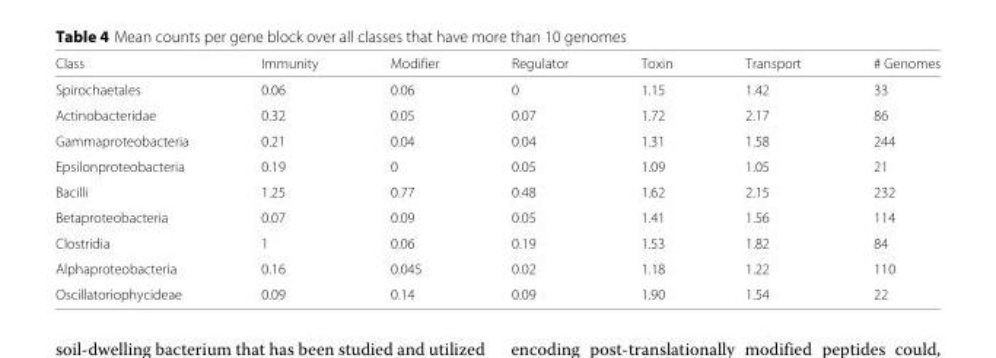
<table><thead><tr><td>Class</td><td>Immunity</td><td>Modifier</td><td>Regulator</td><td>Toxin</td><td>Transport</td><td># Genomes</td></tr></thead><tbody><tr><td>Spirochaetales</td><td>0.06</td><td>0.06</td><td>0</td><td>1.15</td><td>1.42</td><td>33</td></tr><tr><td>Actinobacteridae</td><td>0.32</td><td>0.05</td><td>0.07</td><td>1.72</td><td>2.17</td><td>86</td></tr><tr><td>Gammaproteobacteria</td><td>0.21</td><td>0.04</td><td>0.04</td><td>1.31</td><td>1.58</td><td>244</td></tr><tr><td>Epsilonproteobacteria</td><td>0.19</td><td>0</td><td>0.05</td><td>1.09</td><td>1.05</td><td>21</td></tr><tr><td>Bacilli</td><td>1.25</td><td>0.77</td><td>0.48</td><td>1.62</td><td>2.15</td><td>232</td></tr><tr><td>Betaproteobacteria</td><td>0.07</td><td>0.09</td><td>0.05</td><td>1.41</td><td>1.56</td><td>114</td></tr><tr><td>Clostridia</td><td>1</td><td>0.06</td><td>0.19</td><td>1.53</td><td>1.82</td><td>84</td></tr><tr><td>Alphaproteobacteria</td><td>0.16</td><td>0.045</td><td>0.02</td><td>1.18</td><td>1.22</td><td>110</td></tr><tr><td>Oscillatoriophycideae</td><td>0.09</td><td>0.14</td><td>0.09</td><td>1.90</td><td>1.54</td><td>22</td></tr></tbody></table>